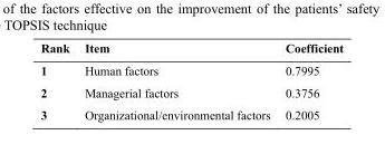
<table><thead><tr><td>Rank</td><td>Item</td><td>Coefficient</td></tr></thead><tbody><tr><td>1</td><td>Human factors</td><td>0.7995</td></tr><tr><td>2</td><td>Managerial factors</td><td>0.3756</td></tr><tr><td>3</td><td>Organizational/environmental factors</td><td>0.2005</td></tr></tbody></table>